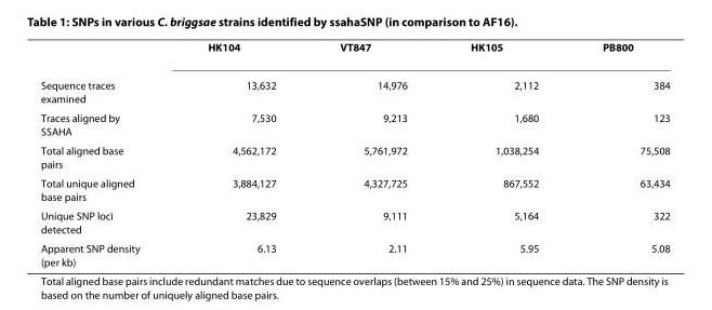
<table><thead><tr><td></td><td>HK104</td><td>VT847</td><td>HK105</td><td>PB800</td></tr></thead><tbody><tr><td>Sequence traces examined</td><td>13,632</td><td>14,976</td><td>2,112</td><td>384</td></tr><tr><td>Traces aligned by SSAHA</td><td>7,530</td><td>9,213</td><td>1,680</td><td>123</td></tr><tr><td>Total aligned base pairs</td><td>4,562,172</td><td>5,761,972</td><td>1,038,254</td><td>75,508</td></tr><tr><td>Total unique aligned base pairs</td><td>3,884,127</td><td>4,327,725</td><td>867,552</td><td>63,434</td></tr><tr><td>Unique SNP loci detected</td><td>23,829</td><td>9,111</td><td>5,164</td><td>322</td></tr><tr><td>Apparent SNP density (per kb)</td><td>6.13</td><td>2.11</td><td>5.95</td><td>5.08</td></tr></tbody></table>